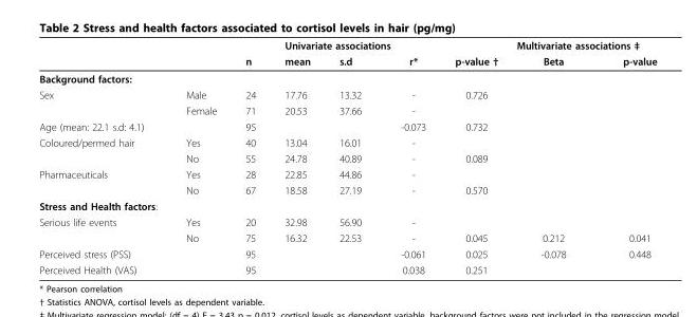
<table><thead><tr><td rowspan="2"></td><td rowspan="2"></td><td rowspan="2">n</td><td colspan="4">Univariate associations</td><td colspan="2">Multivariate associations ‡</td></tr><tr><td>mean</td><td>s.d</td><td>r*</td><td>p-value †</td><td>Beta</td><td>p-value</td></tr></thead><tbody><tr><td colspan="9">Background factors:</td></tr><tr><td rowspan="2">Sex</td><td>Male</td><td>24</td><td>17.76</td><td>13.32</td><td>-</td><td>0.726</td><td></td><td></td></tr><tr><td>Female</td><td>71</td><td>20.53</td><td>37.66</td><td>-</td><td></td><td></td><td></td></tr><tr><td>Age (mean: 22.1 s.d: 4.1)</td><td></td><td>95</td><td></td><td></td><td>-0.073</td><td>0.732</td><td></td><td></td></tr><tr><td rowspan="2">Coloured/permed hair</td><td>Yes</td><td>40</td><td>13.04</td><td>16.01</td><td>-</td><td></td><td></td><td></td></tr><tr><td>No</td><td>55</td><td>24.78</td><td>40.89</td><td>-</td><td>0.089</td><td></td><td></td></tr><tr><td rowspan="2">Pharmaceuticals</td><td>Yes</td><td>28</td><td>22.85</td><td>44.86</td><td>-</td><td></td><td></td><td></td></tr><tr><td>No</td><td>67</td><td>18.58</td><td>27.19</td><td>-</td><td>0.570</td><td></td><td></td></tr><tr><td colspan="9">Stress and Health factors:</td></tr><tr><td rowspan="2">Serious life events</td><td>Yes</td><td>20</td><td>32.98</td><td>56.90</td><td>-</td><td></td><td></td><td></td></tr><tr><td>No</td><td>75</td><td>16.32</td><td>22.53</td><td>-</td><td>0.045</td><td>0.212</td><td>0.041</td></tr><tr><td>Perceived stress (PSS)</td><td></td><td>95</td><td></td><td></td><td>-0.061</td><td>0.025</td><td>-0.078</td><td>0.448</td></tr><tr><td>Perceived Health (VAS)</td><td></td><td>95</td><td></td><td></td><td>0.038</td><td>0.251</td><td></td><td></td></tr></tbody></table>